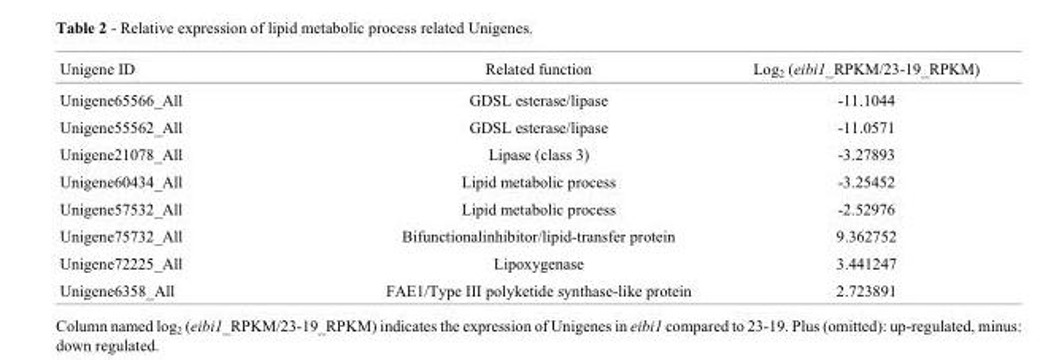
<table><thead><tr><td>Unigene ID</td><td>Related function</td><td>Log<sub>2</sub> (eibi1_RPKM/23-19_RPKM)</td></tr></thead><tbody><tr><td>Unigene65566_All</td><td>GDSL esterase/lipase</td><td>-11.1044</td></tr><tr><td>Unigene55562_All</td><td>GDSL esterase/lipase</td><td>-11.0571</td></tr><tr><td>Unigene21078_All</td><td>Lipase (class 3)</td><td>-3.27893</td></tr><tr><td>Unigene60434_All</td><td>Lipid metabolic process</td><td>-3.25452</td></tr><tr><td>Unigene57532_All</td><td>Lipid metabolic process</td><td>-2.52976</td></tr><tr><td>Unigene75732_All</td><td>Bifunctionalinhibitor/lipid-transfer protein</td><td>9.362752</td></tr><tr><td>Unigene72225_All</td><td>Lipoxygenase</td><td>3.441247</td></tr><tr><td>Unigene6358_All</td><td>FAE1/Type III polyketide synthase-like protein</td><td>2.723891</td></tr></tbody></table>